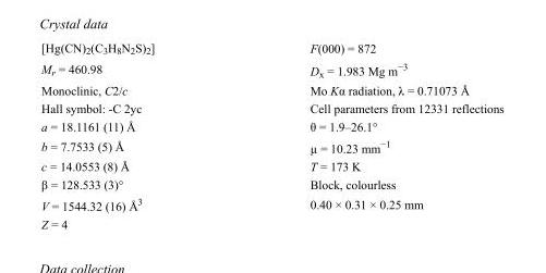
<table><tbody><tr><td>[Hg(CN)<sub>2</sub>(C<sub>3</sub>H<sub>8</sub>N<sub>2</sub>S)<sub>2</sub>]</td><td>F(000) = 872</td></tr><tr><td>M<sub>r</sub> = 460.98</td><td>D<sub>x</sub> = 1.983 Mg m<sup>−3</sup></td></tr><tr><td>Monoclinic, C2/c</td><td>Mo Kα radiation, λ = 0.71073 Å</td></tr><tr><td>Hall symbol: -C 2yc</td><td>Cell parameters from 12331 reflections</td></tr><tr><td>a = 18.1161 (11) Å</td><td>θ = 1.9–26.1°</td></tr><tr><td>b = 7.7533 (5) Å</td><td>µ = 10.23 mm<sup>−1</sup></td></tr><tr><td>c = 14.0553 (8) Å</td><td>T = 173 K</td></tr><tr><td>β = 128.533 (3)°</td><td>Block, colourless</td></tr><tr><td>V = 1544.32 (16) Å<sup>3</sup></td><td>0.40 × 0.31 × 0.25 mm</td></tr><tr><td>Z = 4</td><td></td></tr></tbody></table>